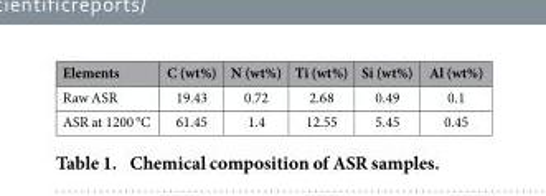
<table><thead><tr><td>Elements</td><td>C (wt%)</td><td>N (wt%)</td><td>Ti (wt%)</td><td>Si (wt%)</td><td>Al (wt%)</td></tr></thead><tbody><tr><td>Raw ASR</td><td>19.43</td><td>0.72</td><td>2.68</td><td>0.49</td><td>0.1</td></tr><tr><td>ASR at 1200 °C</td><td>61.45</td><td>1.4</td><td>12.55</td><td>5.45</td><td>0.45</td></tr></tbody></table>